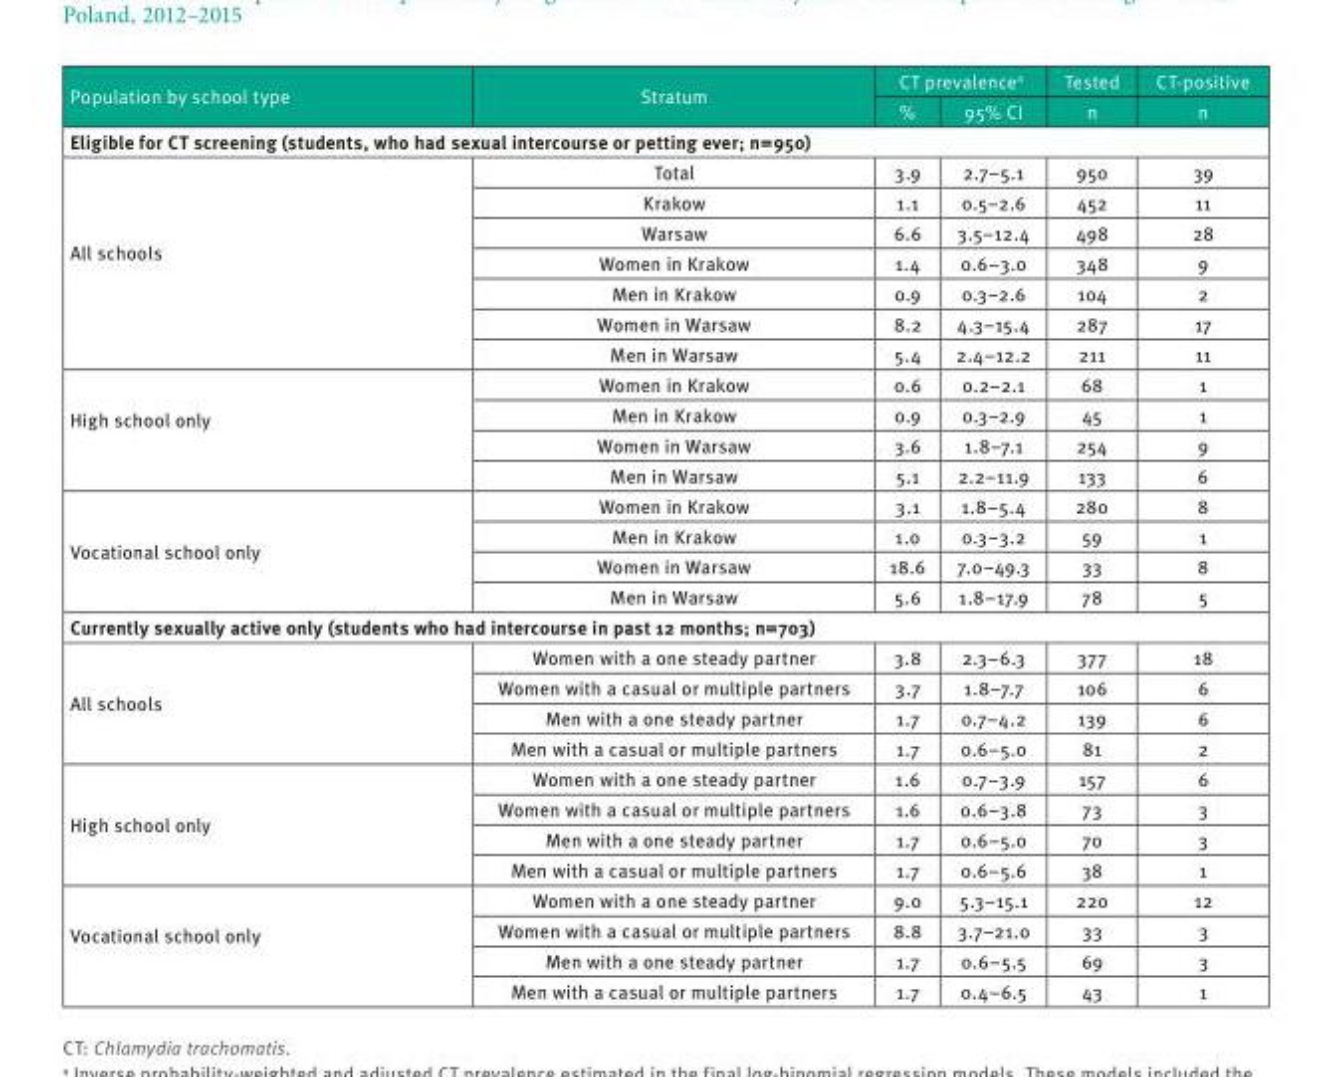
<table><thead><tr><td rowspan="2">Population by school type</td><td rowspan="2">Stratum</td><td colspan="2">CT prevalence<sup>a</sup></td><td rowspan="2">Tested n</td><td rowspan="2">CT-positive n</td></tr><tr><td>%</td><td>95% CI</td></tr></thead><tbody><tr><td colspan="6">Eligible for CT screening (students, who had sexual intercourse or petting ever; n=950)</td></tr><tr><td rowspan="7">All schools</td><td>Total</td><td>3.9</td><td>2.7–5.1</td><td>950</td><td>39</td></tr><tr><td>Krakow</td><td>1.1</td><td>0.5–2.6</td><td>452</td><td>11</td></tr><tr><td>Warsaw</td><td>6.6</td><td>3.5–12.4</td><td>498</td><td>28</td></tr><tr><td>Women in Krakow</td><td>1.4</td><td>0.6–3.0</td><td>348</td><td>9</td></tr><tr><td>Men in Krakow</td><td>0.9</td><td>0.3–2.6</td><td>104</td><td>2</td></tr><tr><td>Women in Warsaw</td><td>8.2</td><td>4.3–15.4</td><td>287</td><td>17</td></tr><tr><td>Men in Warsaw</td><td>5.4</td><td>2.4–12.2</td><td>211</td><td>11</td></tr><tr><td rowspan="4">High school only</td><td>Women in Krakow</td><td>0.6</td><td>0.2–2.1</td><td>68</td><td>1</td></tr><tr><td>Men in Krakow</td><td>0.9</td><td>0.3–2.9</td><td>45</td><td>1</td></tr><tr><td>Women in Warsaw</td><td>3.6</td><td>1.8–7.1</td><td>254</td><td>9</td></tr><tr><td>Men in Warsaw</td><td>5.1</td><td>2.2–11.9</td><td>133</td><td>6</td></tr><tr><td rowspan="4">Vocational school only</td><td>Women in Krakow</td><td>3.1</td><td>1.8–5.4</td><td>280</td><td>8</td></tr><tr><td>Men in Krakow</td><td>1.0</td><td>0.3–3.2</td><td>59</td><td>1</td></tr><tr><td>Women in Warsaw</td><td>18.6</td><td>7.0–49.3</td><td>33</td><td>8</td></tr><tr><td>Men in Warsaw</td><td>5.6</td><td>1.8–17.9</td><td>78</td><td>5</td></tr><tr><td colspan="6">Currently sexually active only (students who had intercourse in past 12 months; n=703)</td></tr><tr><td rowspan="4">All schools</td><td>Women with a one steady partner</td><td>3.8</td><td>2.3–6.3</td><td>377</td><td>18</td></tr><tr><td>Women with a casual or multiple partners</td><td>3.7</td><td>1.8–7.7</td><td>106</td><td>6</td></tr><tr><td>Men with a one steady partner</td><td>1.7</td><td>0.7–4.2</td><td>139</td><td>6</td></tr><tr><td>Men with a casual or multiple partners</td><td>1.7</td><td>0.6–5.0</td><td>81</td><td>2</td></tr><tr><td rowspan="4">High school only</td><td>Women with a one steady partner</td><td>1.6</td><td>0.7–3.9</td><td>157</td><td>6</td></tr><tr><td>Women with a casual or multiple partners</td><td>1.6</td><td>0.6–3.8</td><td>73</td><td>3</td></tr><tr><td>Men with a one steady partner</td><td>1.7</td><td>0.6–5.0</td><td>70</td><td>3</td></tr><tr><td>Men with a casual or multiple partners</td><td>1.7</td><td>0.6–5.6</td><td>38</td><td>1</td></tr><tr><td rowspan="4">Vocational school only</td><td>Women with a one steady partner</td><td>9.0</td><td>5.3–15.1</td><td>220</td><td>12</td></tr><tr><td>Women with a casual or multiple partners</td><td>8.8</td><td>3.7–21.0</td><td>33</td><td>3</td></tr><tr><td>Men with a one steady partner</td><td>1.7</td><td>0.6–5.5</td><td>69</td><td>3</td></tr><tr><td>Men with a casual or multiple partners</td><td>1.7</td><td>0.4–6.5</td><td>43</td><td>1</td></tr></tbody></table>